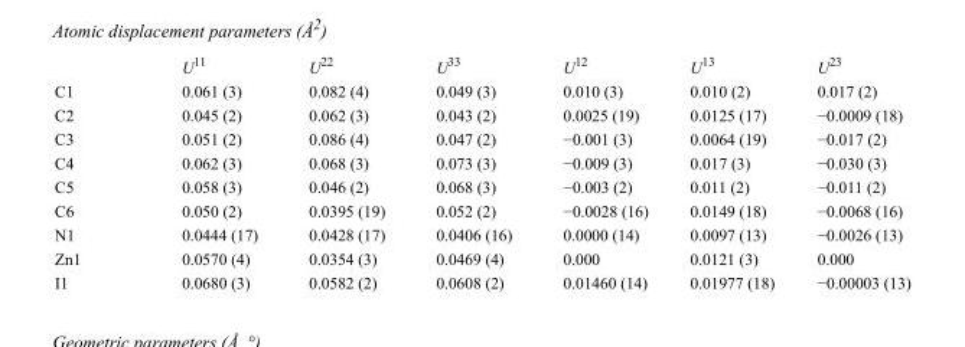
<table><thead><tr><td></td><td>U<sup>11</sup></td><td>U<sup>22</sup></td><td>U<sup>33</sup></td><td>U<sup>12</sup></td><td>U<sup>13</sup></td><td>U<sup>23</sup></td></tr></thead><tbody><tr><td>C1</td><td>0.061 (3)</td><td>0.082 (4)</td><td>0.049 (3)</td><td>0.010 (3)</td><td>0.010 (2)</td><td>0.017 (2)</td></tr><tr><td>C2</td><td>0.045 (2)</td><td>0.062 (3)</td><td>0.043 (2)</td><td>0.0025 (19)</td><td>0.0125 (17)</td><td>−0.0009 (18)</td></tr><tr><td>C3</td><td>0.051 (2)</td><td>0.086 (4)</td><td>0.047 (2)</td><td>−0.001 (3)</td><td>0.0064 (19)</td><td>−0.017 (2)</td></tr><tr><td>C4</td><td>0.062 (3)</td><td>0.068 (3)</td><td>0.073 (3)</td><td>−0.009 (3)</td><td>0.017 (3)</td><td>−0.030 (3)</td></tr><tr><td>C5</td><td>0.058 (3)</td><td>0.046 (2)</td><td>0.068 (3)</td><td>−0.003 (2)</td><td>0.011 (2)</td><td>−0.011 (2)</td></tr><tr><td>C6</td><td>0.050 (2)</td><td>0.0395 (19)</td><td>0.052 (2)</td><td>−0.0028 (16)</td><td>0.0149 (18)</td><td>−0.0068 (16)</td></tr><tr><td>N1</td><td>0.0444 (17)</td><td>0.0428 (17)</td><td>0.0406 (16)</td><td>0.0000 (14)</td><td>0.0097 (13)</td><td>−0.0026 (13)</td></tr><tr><td>Zn1</td><td>0.0570 (4)</td><td>0.0354 (3)</td><td>0.0469 (4)</td><td>0.000</td><td>0.0121 (3)</td><td>0.000</td></tr><tr><td>I1</td><td>0.0680 (3)</td><td>0.0582 (2)</td><td>0.0608 (2)</td><td>0.01460 (14)</td><td>0.01977 (18)</td><td>−0.00003 (13)</td></tr></tbody></table>